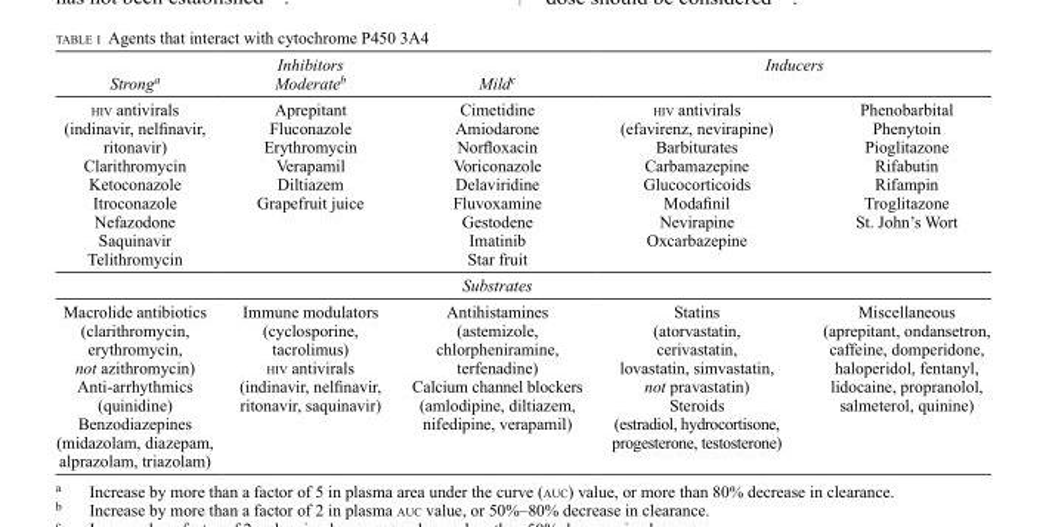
<table><thead><tr><td rowspan="2">Stronga hiv antivirals (indinavir, nelfinavir, ritonavir) Clarithromycin Ketoconazole Itroconazole Nefazodone Saquinavir Telithromycin</td><td rowspan="2">Inhibitors Moderateb Aprepitant Fluconazole Erythromycin Verapamil Diltiazem Grapefruit juice</td><td rowspan="2">Mildc Cimetidine Amiodarone Norfloxacin Voriconazole Delaviridine Fluvoxamine Gestodene Imatinib Star fruit</td><td colspan="2">Inducers</td></tr><tr><td>hiv antivirals (efavirenz, nevirapine) Barbiturates Carbamazepine Glucocorticoids Modafinil Nevirapine Oxcarbazepine</td><td>Phenobarbital Phenytoin Pioglitazone Rifabutin Rifampin Troglitazone St. John’s Wort</td></tr></thead><tbody><tr><td colspan="5">Substrates</td></tr><tr><td>Macrolide antibiotics (clarithromycin, erythromycin, not azithromycin) Anti-arrhythmics (quinidine) Benzodiazepines (midazolam, diazepam, alprazolam, triazolam)</td><td>Immune modulators (cyclosporine, tacrolimus) hiv antivirals (indinavir, nelfinavir, ritonavir, saquinavir)</td><td>Antihistamines (astemizole, chlorpheniramine, terfenadine) Calcium channel blockers (amlodipine, diltiazem, nifedipine, verapamil)</td><td>Statins (atorvastatin, cerivastatin, lovastatin, simvastatin, not pravastatin) Steroids (estradiol, hydrocortisone, progesterone, testosterone)</td><td>Miscellaneous (aprepitant, ondansetron, caffeine, domperidone, haloperidol, fentanyl, lidocaine, propranolol, salmeterol, quinine)</td></tr></tbody></table>